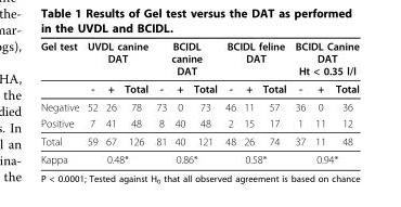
<table><thead><tr><td rowspan="2">Gel test</td><td colspan="3">UVDL canine DAT</td><td colspan="3">BCIDL canine DAT</td><td colspan="3">BCIDL feline DAT</td><td colspan="3">BCIDL Canine DAT Ht &lt; 0.35 l/l</td></tr><tr><td>-</td><td>+</td><td>Total</td><td>-</td><td>+</td><td>Total</td><td>-</td><td>+</td><td>Total</td><td>-</td><td>+</td><td>Total</td></tr></thead><tbody><tr><td>Negative</td><td>52</td><td>26</td><td>78</td><td>73</td><td>0</td><td>73</td><td>46</td><td>11</td><td>57</td><td>36</td><td>0</td><td>36</td></tr><tr><td>Positive</td><td>7</td><td>41</td><td>48</td><td>8</td><td>40</td><td>48</td><td>2</td><td>15</td><td>17</td><td>1</td><td>11</td><td>12</td></tr><tr><td>Total</td><td>59</td><td>67</td><td>126</td><td>81</td><td>40</td><td>121</td><td>48</td><td>26</td><td>74</td><td>37</td><td>11</td><td>48</td></tr><tr><td>Kappa</td><td colspan="3">0.48*</td><td colspan="3">0.86*</td><td colspan="3">0.58*</td><td colspan="3">0.94*</td></tr></tbody></table>